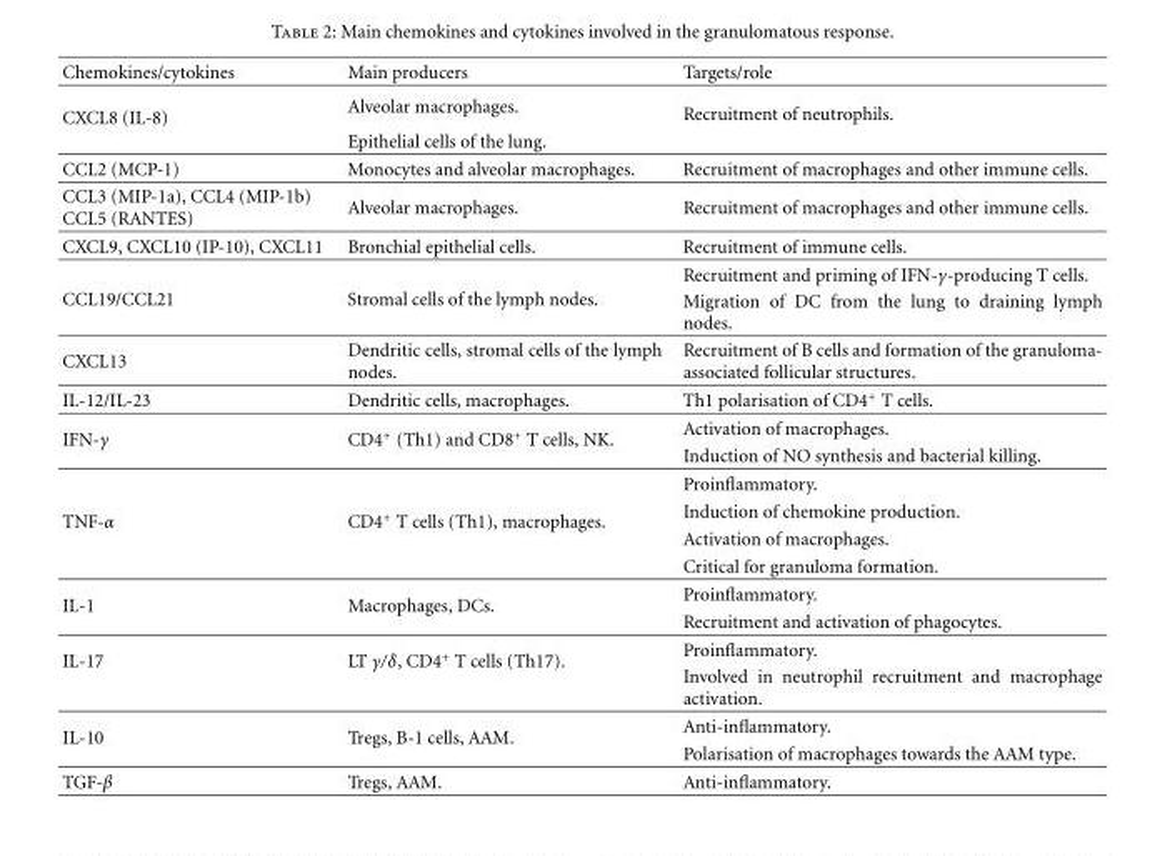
<table><thead><tr><td>Chemokines/cytokines</td><td>Main producers</td><td>Targets/role</td></tr></thead><tbody><tr><td rowspan="2">CXCL8 (IL-8)</td><td>Alveolar macrophages.</td><td>Recruitment of neutrophils.</td></tr><tr><td>Epithelial cells of the lung.</td><td></td></tr><tr><td>CCL2 (MCP-1)</td><td>Monocytes and alveolar macrophages.</td><td>Recruitment of macrophages and other immune cells.</td></tr><tr><td>CCL3 (MIP-1a), CCL4 (MIP-1b) CCL5 (RANTES)</td><td>Alveolar macrophages.</td><td>Recruitment of macrophages and other immune cells.</td></tr><tr><td>CXCL9, CXCL10 (IP-10), CXCL11</td><td>Bronchial epithelial cells.</td><td>Recruitment of immune cells.</td></tr><tr><td rowspan="2">CCL19/CCL21</td><td rowspan="2">Stromal cells of the lymph nodes.</td><td>Recruitment and priming of IFN-γ-producing T cells.</td></tr><tr><td>Migration of DC from the lung to draining lymph nodes.</td></tr><tr><td>CXCL13</td><td>Dendritic cells, stromal cells of the lymph nodes.</td><td>Recruitment of B cells and formation of the granuloma- associated follicular structures.</td></tr><tr><td>IL-12/IL-23</td><td>Dendritic cells, macrophages.</td><td>Th1 polarisation of CD4<sup>+</sup> T cells.</td></tr><tr><td rowspan="2">IFN-γ</td><td rowspan="2">CD4<sup>+</sup> (Th1) and CD8<sup>+</sup> T cells, NK.</td><td>Activation of macrophages.</td></tr><tr><td>Induction of NO synthesis and bacterial killing.</td></tr><tr><td rowspan="4">TNF-α</td><td rowspan="4">CD4<sup>+</sup> T cells (Th1), macrophages.</td><td>Proinflammatory.</td></tr><tr><td>Induction of chemokine production.</td></tr><tr><td>Activation of macrophages.</td></tr><tr><td>Critical for granuloma formation.</td></tr><tr><td rowspan="2">IL-1</td><td rowspan="2">Macrophages, DCs.</td><td>Proinflammatory.</td></tr><tr><td>Recruitment and activation of phagocytes.</td></tr><tr><td rowspan="2">IL-17</td><td rowspan="2">LT γ/δ, CD4<sup>+</sup> T cells (Th17).</td><td>Proinflammatory.</td></tr><tr><td>Involved in neutrophil recruitment and macrophage activation.</td></tr><tr><td rowspan="2">IL-10</td><td rowspan="2">Tregs, B-1 cells, AAM.</td><td>Anti-inflammatory.</td></tr><tr><td>Polarisation of macrophages towards the AAM type.</td></tr><tr><td>TGF-β</td><td>Tregs, AAM.</td><td>Anti-inflammatory.</td></tr></tbody></table>